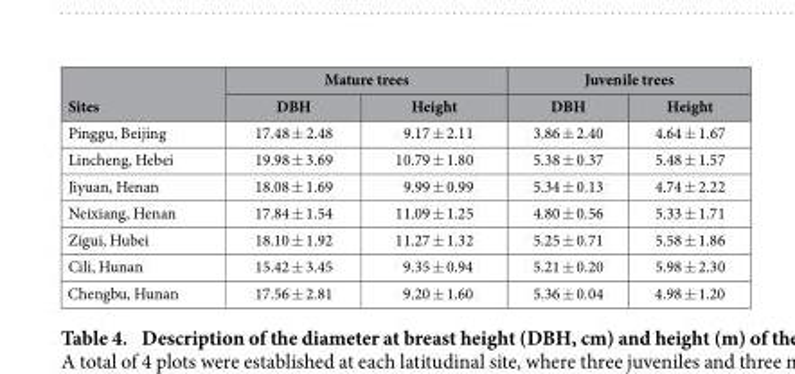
<table><thead><tr><td rowspan="2">Sites</td><td colspan="2">Mature trees</td><td colspan="2">Juvenile trees</td></tr><tr><td>DBH</td><td>Height</td><td>DBH</td><td>Height</td></tr></thead><tbody><tr><td>Pinggu, Beijing</td><td>17.48 ± 2.48</td><td>9.17 ± 2.11</td><td>3.86 ± 2.40</td><td>4.64 ± 1.67</td></tr><tr><td>Lincheng, Hebei</td><td>19.98 ± 3.69</td><td>10.79 ± 1.80</td><td>5.38 ± 0.37</td><td>5.48 ± 1.57</td></tr><tr><td>Jiyuan, Henan</td><td>18.08 ± 1.69</td><td>9.99 ± 0.99</td><td>5.34 ± 0.13</td><td>4.74 ± 2.22</td></tr><tr><td>Neixiang, Henan</td><td>17.84 ± 1.54</td><td>11.09 ± 1.25</td><td>4.80 ± 0.56</td><td>5.33 ± 1.71</td></tr><tr><td>Zigui, Hubei</td><td>18.10 ± 1.92</td><td>11.27 ± 1.32</td><td>5.25 ± 0.71</td><td>5.58 ± 1.86</td></tr><tr><td>Cili, Hunan</td><td>15.42 ± 3.45</td><td>9.35 ± 0.94</td><td>5.21 ± 0.20</td><td>5.98 ± 2.30</td></tr><tr><td>Chengbu, Hunan</td><td>17.56 ± 2.81</td><td>9.20 ± 1.60</td><td>5.36 ± 0.04</td><td>4.98 ± 1.20</td></tr></tbody></table>